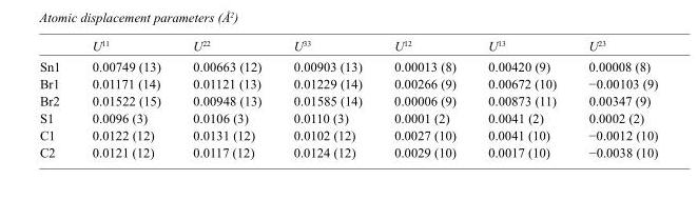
<table><thead><tr><td></td><td>U<sup>11</sup></td><td>U<sup>22</sup></td><td>U<sup>33</sup></td><td>U<sup>12</sup></td><td>U<sup>13</sup></td><td>U<sup>23</sup></td></tr></thead><tbody><tr><td>Sn1</td><td>0.00749 (13)</td><td>0.00663 (12)</td><td>0.00903 (13)</td><td>0.00013 (8)</td><td>0.00420 (9)</td><td>0.00008 (8)</td></tr><tr><td>Br1</td><td>0.01171 (14)</td><td>0.01121 (13)</td><td>0.01229 (14)</td><td>0.00266 (9)</td><td>0.00672 (10)</td><td>−0.00103 (9)</td></tr><tr><td>Br2</td><td>0.01522 (15)</td><td>0.00948 (13)</td><td>0.01585 (14)</td><td>0.00006 (9)</td><td>0.00873 (11)</td><td>0.00347 (9)</td></tr><tr><td>S1</td><td>0.0096 (3)</td><td>0.0106 (3)</td><td>0.0110 (3)</td><td>0.0001 (2)</td><td>0.0041 (2)</td><td>0.0002 (2)</td></tr><tr><td>C1</td><td>0.0122 (12)</td><td>0.0131 (12)</td><td>0.0102 (12)</td><td>0.0027 (10)</td><td>0.0041 (10)</td><td>−0.0012 (10)</td></tr><tr><td>C2</td><td>0.0121 (12)</td><td>0.0117 (12)</td><td>0.0124 (12)</td><td>0.0029 (10)</td><td>0.0017 (10)</td><td>−0.0038 (10)</td></tr></tbody></table>